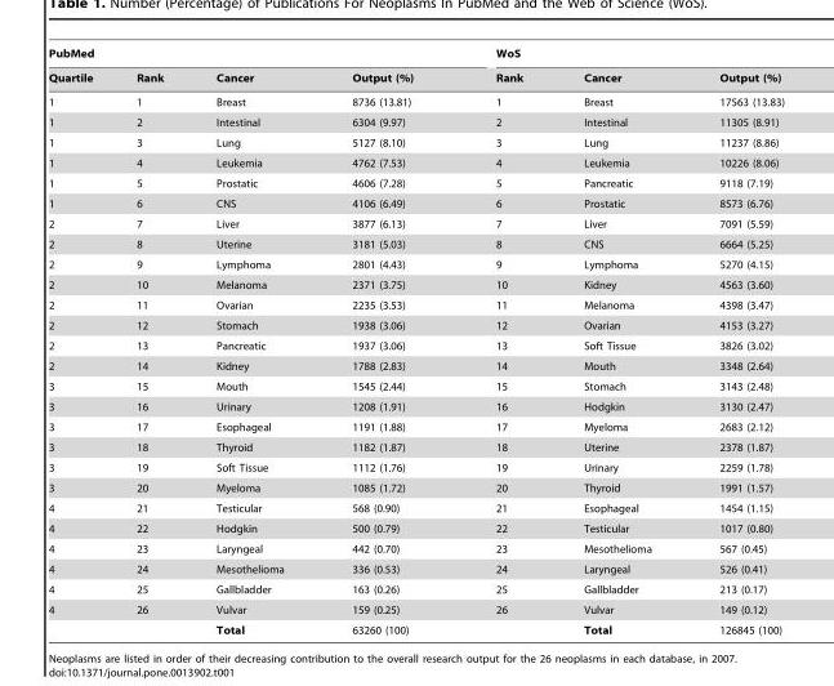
<table><thead><tr><td colspan="4">PubMed</td><td colspan="3">WoS</td></tr><tr><td>Quartile</td><td>Rank</td><td>Cancer</td><td>Output (%)</td><td>Rank</td><td>Cancer</td><td>Output (%)</td></tr></thead><tbody><tr><td>1</td><td>1</td><td>Breast</td><td>8736 (13.81)</td><td>1</td><td>Breast</td><td>17563 (13.83)</td></tr><tr><td>1</td><td>2</td><td>Intestinal</td><td>6304 (9.97)</td><td>2</td><td>Intestinal</td><td>11305 (8.91)</td></tr><tr><td>1</td><td>3</td><td>Lung</td><td>5127 (8.10)</td><td>3</td><td>Lung</td><td>11237 (8.86)</td></tr><tr><td>1</td><td>4</td><td>Leukemia</td><td>4762 (7.53)</td><td>4</td><td>Leukemia</td><td>10226 (8.06)</td></tr><tr><td>1</td><td>5</td><td>Prostatic</td><td>4606 (7.28)</td><td>5</td><td>Pancreatic</td><td>9118 (7.19)</td></tr><tr><td>1</td><td>6</td><td>CNS</td><td>4106 (6.49)</td><td>6</td><td>Prostatic</td><td>8573 (6.76)</td></tr><tr><td>2</td><td>7</td><td>Liver</td><td>3877 (6.13)</td><td>7</td><td>Liver</td><td>7091 (5.59)</td></tr><tr><td>2</td><td>8</td><td>Uterine</td><td>3181 (5.03)</td><td>8</td><td>CNS</td><td>6664 (5.25)</td></tr><tr><td>2</td><td>9</td><td>Lymphoma</td><td>2801 (4.43)</td><td>9</td><td>Lymphoma</td><td>5270 (4.15)</td></tr><tr><td>2</td><td>10</td><td>Melanoma</td><td>2371 (3.75)</td><td>10</td><td>Kidney</td><td>4563 (3.60)</td></tr><tr><td>2</td><td>11</td><td>Ovarian</td><td>2235 (3.53)</td><td>11</td><td>Melanoma</td><td>4398 (3.47)</td></tr><tr><td>2</td><td>12</td><td>Stomach</td><td>1938 (3.06)</td><td>12</td><td>Ovarian</td><td>4153 (3.27)</td></tr><tr><td>2</td><td>13</td><td>Pancreatic</td><td>1937 (3.06)</td><td>13</td><td>Soft Tissue</td><td>3826 (3.02)</td></tr><tr><td>2</td><td>14</td><td>Kidney</td><td>1788 (2.83)</td><td>14</td><td>Mouth</td><td>3348 (2.64)</td></tr><tr><td>3</td><td>15</td><td>Mouth</td><td>1545 (2.44)</td><td>15</td><td>Stomach</td><td>3143 (2.48)</td></tr><tr><td>3</td><td>16</td><td>Urinary</td><td>1208 (1.91)</td><td>16</td><td>Hodgkin</td><td>3130 (2.47)</td></tr><tr><td>3</td><td>17</td><td>Esophageal</td><td>1191 (1.88)</td><td>17</td><td>Myeloma</td><td>2683 (2.12)</td></tr><tr><td>3</td><td>18</td><td>Thyroid</td><td>1182 (1.87)</td><td>18</td><td>Uterine</td><td>2378 (1.87)</td></tr><tr><td>3</td><td>19</td><td>Soft Tissue</td><td>1112 (1.76)</td><td>19</td><td>Urinary</td><td>2259 (1.78)</td></tr><tr><td>3</td><td>20</td><td>Myeloma</td><td>1085 (1.72)</td><td>20</td><td>Thyroid</td><td>1991 (1.57)</td></tr><tr><td>4</td><td>21</td><td>Testicular</td><td>568 (0.90)</td><td>21</td><td>Esophageal</td><td>1454 (1.15)</td></tr><tr><td>4</td><td>22</td><td>Hodgkin</td><td>500 (0.79)</td><td>22</td><td>Testicular</td><td>1017 (0.80)</td></tr><tr><td>4</td><td>23</td><td>Laryngeal</td><td>442 (0.70)</td><td>23</td><td>Mesothelioma</td><td>567 (0.45)</td></tr><tr><td>4</td><td>24</td><td>Mesothelioma</td><td>336 (0.53)</td><td>24</td><td>Laryngeal</td><td>526 (0.41)</td></tr><tr><td>4</td><td>25</td><td>Gallbladder</td><td>163 (0.26)</td><td>25</td><td>Gallbladder</td><td>213 (0.17)</td></tr><tr><td rowspan="2">4</td><td>26</td><td>Vulvar</td><td>159 (0.25)</td><td>26</td><td>Vulvar</td><td>149 (0.12)</td></tr><tr><td></td><td>Total</td><td>63260 (100)</td><td></td><td>Total</td><td>126845 (100)</td></tr></tbody></table>